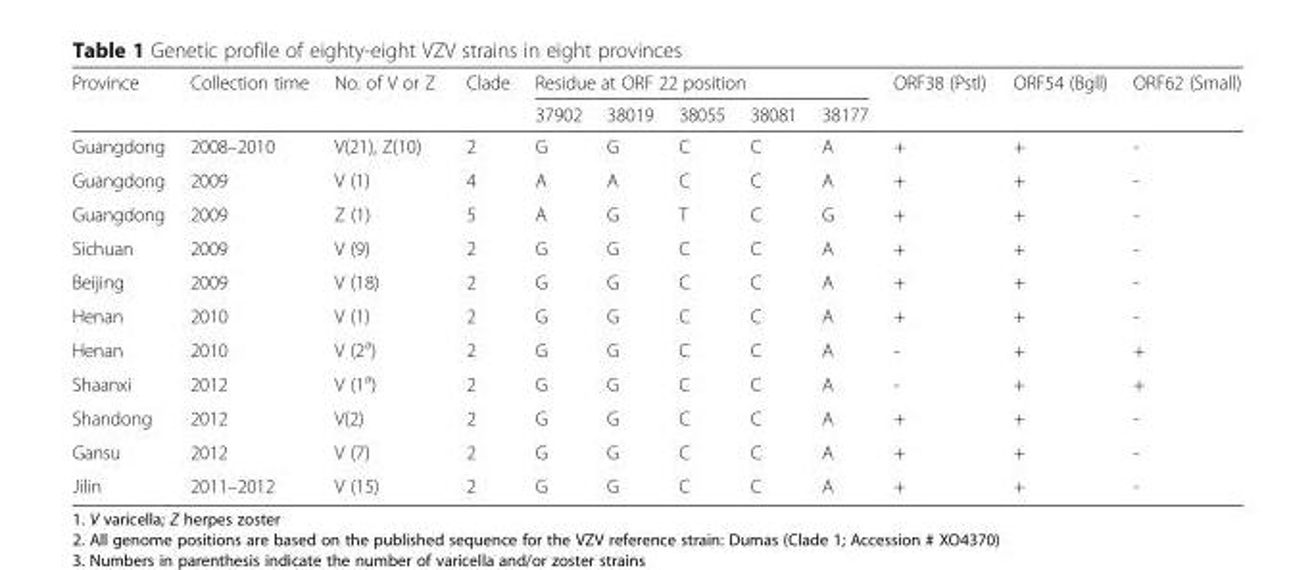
<table><thead><tr><td rowspan="2">Province</td><td rowspan="2">Collection time</td><td rowspan="2">No. of V or Z</td><td rowspan="2">Clade</td><td colspan="5">Residue at ORF 22 position</td><td rowspan="2">ORF38 (Pstl)</td><td rowspan="2">ORF54 (Bgll)</td><td rowspan="2">ORF62 (Small)</td></tr><tr><td>37902</td><td>38019</td><td>38055</td><td>38081</td><td>38177</td></tr></thead><tbody><tr><td>Guangdong</td><td>2008–2010</td><td>V(21), Z(10)</td><td>2</td><td>G</td><td>G</td><td>C</td><td>C</td><td>A</td><td>+</td><td>+</td><td>-</td></tr><tr><td>Guangdong</td><td>2009</td><td>V (1)</td><td>4</td><td>A</td><td>A</td><td>C</td><td>C</td><td>A</td><td>+</td><td>+</td><td>-</td></tr><tr><td>Guangdong</td><td>2009</td><td>Z (1)</td><td>5</td><td>A</td><td>G</td><td>T</td><td>C</td><td>G</td><td>+</td><td>+</td><td>-</td></tr><tr><td>Sichuan</td><td>2009</td><td>V (9)</td><td>2</td><td>G</td><td>G</td><td>C</td><td>C</td><td>A</td><td>+</td><td>+</td><td>-</td></tr><tr><td>Beijing</td><td>2009</td><td>V (18)</td><td>2</td><td>G</td><td>G</td><td>C</td><td>C</td><td>A</td><td>+</td><td>+</td><td>-</td></tr><tr><td>Henan</td><td>2010</td><td>V (1)</td><td>2</td><td>G</td><td>G</td><td>C</td><td>C</td><td>A</td><td>+</td><td>+</td><td>-</td></tr><tr><td>Henan</td><td>2010</td><td>V (2<sup>a</sup>)</td><td>2</td><td>G</td><td>G</td><td>C</td><td>C</td><td>A</td><td>-</td><td>+</td><td>+</td></tr><tr><td>Shaanxi</td><td>2012</td><td>V (1<sup>a</sup>)</td><td>2</td><td>G</td><td>G</td><td>C</td><td>C</td><td>A</td><td>-</td><td>+</td><td>+</td></tr><tr><td>Shandong</td><td>2012</td><td>V(2)</td><td>2</td><td>G</td><td>G</td><td>C</td><td>C</td><td>A</td><td>+</td><td>+</td><td>-</td></tr><tr><td>Gansu</td><td>2012</td><td>V (7)</td><td>2</td><td>G</td><td>G</td><td>C</td><td>C</td><td>A</td><td>+</td><td>+</td><td>-</td></tr><tr><td>Jilin</td><td>2011–2012</td><td>V (15)</td><td>2</td><td>G</td><td>G</td><td>C</td><td>C</td><td>A</td><td>+</td><td>+</td><td>-</td></tr></tbody></table>